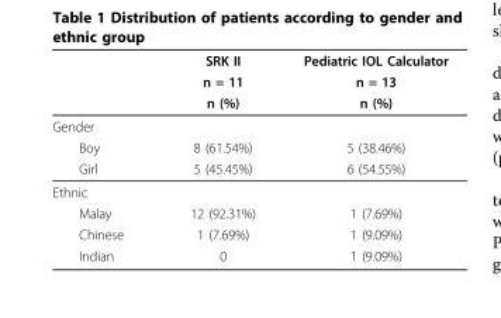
<table><thead><tr><td rowspan="3"></td><td rowspan="3">SRK II n = 11 n (%)</td><td rowspan="3">Pediatric IOL Calculator n = 13 n (%)</td></tr><tr></tr><tr></tr></thead><tbody><tr><td colspan="3">Gender</td></tr><tr><td>Boy</td><td>8 (61.54%)</td><td>5 (38.46%)</td></tr><tr><td>Girl</td><td>5 (45.45%)</td><td>6 (54.55%)</td></tr><tr><td colspan="3">Ethnic</td></tr><tr><td>Malay</td><td>12 (92.31%)</td><td>1 (7.69%)</td></tr><tr><td>Chinese</td><td>1 (7.69%)</td><td>1 (9.09%)</td></tr><tr><td>Indian</td><td>0</td><td>1 (9.09%)</td></tr></tbody></table>